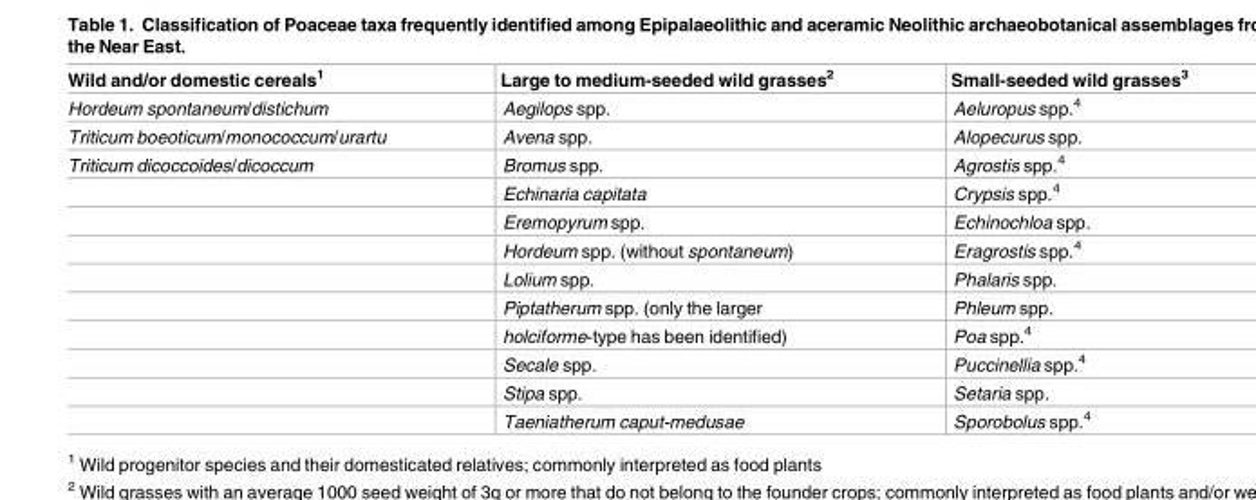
<table><thead><tr><td>Wild and/or domestic cereals<sup>1</sup></td><td>Large to medium-seeded wild grasses<sup>2</sup></td><td>Small-seeded wild grasses<sup>3</sup></td></tr></thead><tbody><tr><td>Hordeum spontaneum/distichum</td><td>Aegilops spp.</td><td>Aeluropus spp.<sup>4</sup></td></tr><tr><td>Triticum boeoticum/monococcum/urartu</td><td>Avena spp.</td><td>Alopecurus spp.</td></tr><tr><td rowspan="10">Triticum dicoccoides/dicoccum</td><td>Bromus spp.</td><td>Agrostis spp.<sup>4</sup></td></tr><tr><td>Echinaria capitata</td><td>Crypsis spp.<sup>4</sup></td></tr><tr><td>Eremopyrum spp.</td><td>Echinochloa spp.</td></tr><tr><td>Hordeum spp. (without spontaneum)</td><td>Eragrostis spp.<sup>4</sup></td></tr><tr><td>Lolium spp.</td><td>Phalaris spp.</td></tr><tr><td>Piptatherum spp. (only the larger</td><td>Phleum spp.</td></tr><tr><td>holciforme-type has been identified)</td><td>Poa spp.<sup>4</sup></td></tr><tr><td>Secale spp.</td><td>Puccinellia spp.<sup>4</sup></td></tr><tr><td>Stipa spp.</td><td>Setaria spp.</td></tr><tr><td>Taeniatherum caput-medusae</td><td>Sporobolus spp.<sup>4</sup></td></tr></tbody></table>